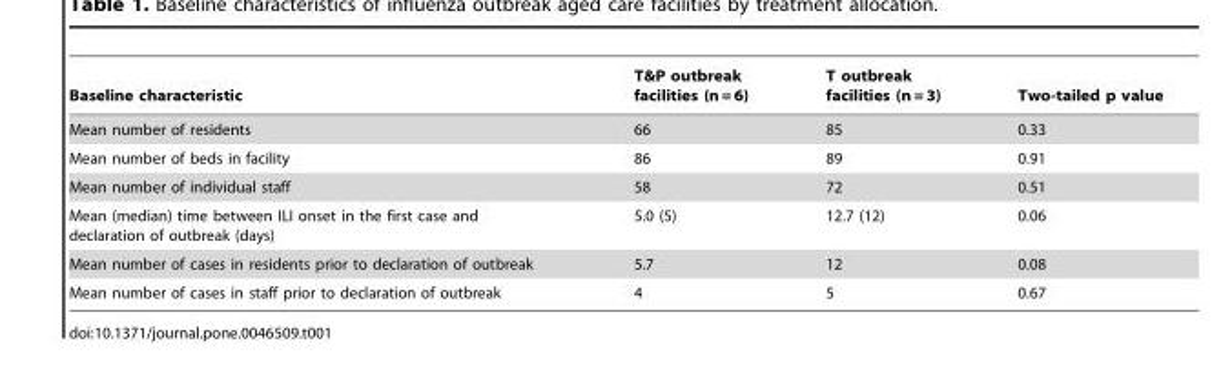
<table><thead><tr><td>Baseline characteristic</td><td>T&amp;P outbreak facilities (n = 6)</td><td>T outbreak facilities (n = 3)</td><td>Two-tailed p value</td></tr></thead><tbody><tr><td>Mean number of residents</td><td>66</td><td>85</td><td>0.33</td></tr><tr><td>Mean number of beds in facility</td><td>86</td><td>89</td><td>0.91</td></tr><tr><td>Mean number of individual staff</td><td>58</td><td>72</td><td>0.51</td></tr><tr><td>Mean (median) time between ILI onset in the first case and declaration of outbreak (days)</td><td>5.0 (5)</td><td>12.7 (12)</td><td>0.06</td></tr><tr><td>Mean number of cases in residents prior to declaration of outbreak</td><td>5.7</td><td>12</td><td>0.08</td></tr><tr><td>Mean number of cases in staff prior to declaration of outbreak</td><td>4</td><td>5</td><td>0.67</td></tr></tbody></table>